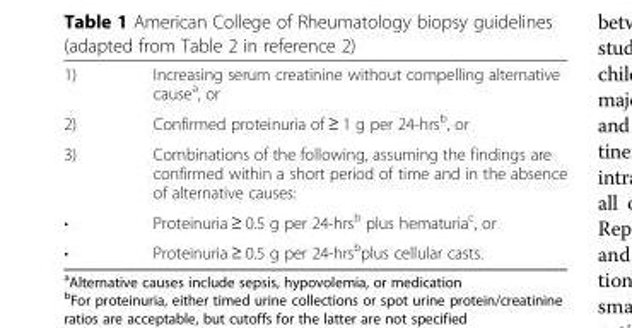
<table><tbody><tr><td>1)</td><td>Increasing serum creatinine without compelling alternative cause<sup>a</sup>, or</td></tr><tr><td>2)</td><td>Confirmed proteinuria of ≥ 1 g per 24-hrs<sup>b</sup>, or</td></tr><tr><td>3)</td><td>Combinations of the following, assuming the findings are confirmed within a short period of time and in the absence of alternative causes:</td></tr><tr><td>•</td><td>Proteinuria ≥ 0.5 g per 24-hrs<sup>b</sup> plus hematuria<sup>c</sup>, or</td></tr><tr><td>•</td><td>Proteinuria ≥ 0.5 g per 24-hrs<sup>b</sup>plus cellular casts.</td></tr></tbody></table>